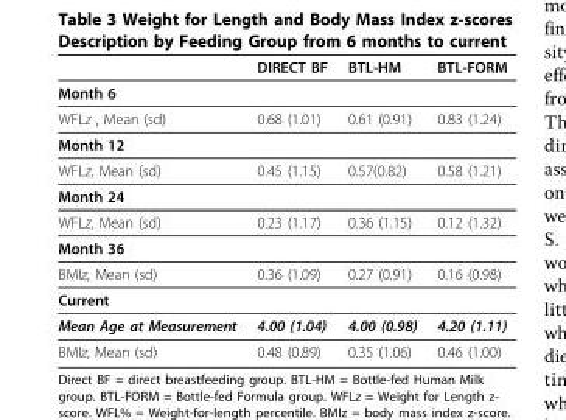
<table><thead><tr><td></td><td>DIRECT BF</td><td>BTL-HM</td><td>BTL-FORM</td></tr></thead><tbody><tr><td colspan="4">Month 6</td></tr><tr><td>WFLz , Mean (sd)</td><td>0.68 (1.01)</td><td>0.61 (0.91)</td><td>0.83 (1.24)</td></tr><tr><td colspan="4">Month 12</td></tr><tr><td>WFLz, Mean (sd)</td><td>0.45 (1.15)</td><td>0.57(0.82)</td><td>0.58 (1.21)</td></tr><tr><td colspan="4">Month 24</td></tr><tr><td>WFLz, Mean (sd)</td><td>0.23 (1.17)</td><td>0.36 (1.15)</td><td>0.12 (1.32)</td></tr><tr><td colspan="4">Month 36</td></tr><tr><td>BMIz, Mean (sd)</td><td>0.36 (1.09)</td><td>0.27 (0.91)</td><td>0.16 (0.98)</td></tr><tr><td colspan="4">Current</td></tr><tr><td>Mean Age at Measurement</td><td>4.00 (1.04)</td><td>4.00 (0.98)</td><td>4.20 (1.11)</td></tr><tr><td>BMIz, Mean (sd)</td><td>0.48 (0.89)</td><td>0.35 (1.06)</td><td>0.46 (1.00)</td></tr></tbody></table>